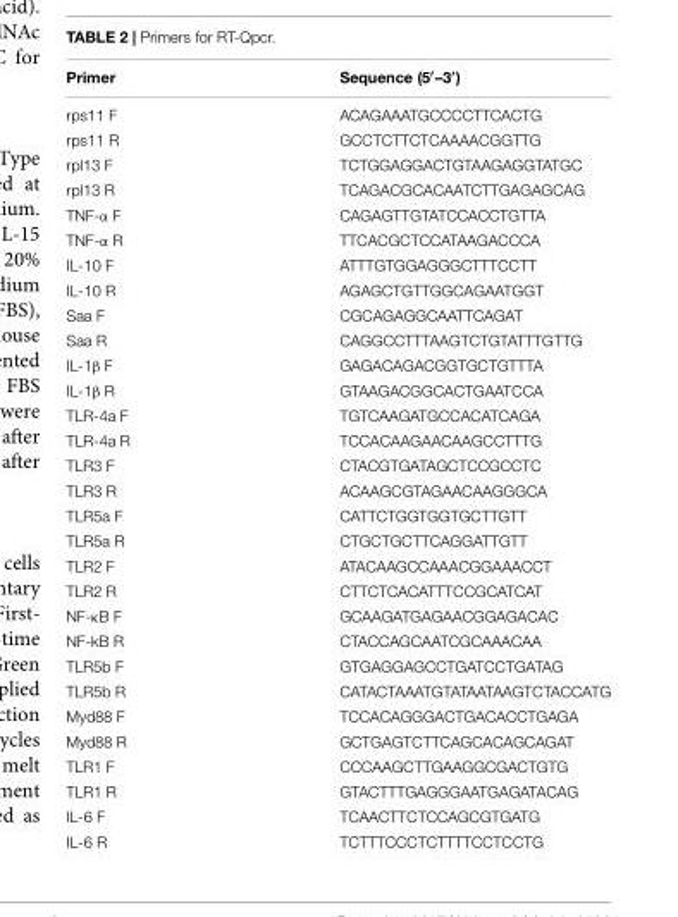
<table><thead><tr><td>Primer</td><td>Sequence (5′–3′)</td></tr></thead><tbody><tr><td>rps11 F</td><td>ACAGAAATGCCCCTTCACTG</td></tr><tr><td>rps11 R</td><td>GCCTCTTCTCAAAACGGTTG</td></tr><tr><td>rpl13 F</td><td>TCTGGAGGACTGTAAGAGGTATGC</td></tr><tr><td>rpl13 R</td><td>TCAGACGCACAATCTTGAGAGCAG</td></tr><tr><td>TNF-α F</td><td>CAGAGTTGTATCCACCTGTTA</td></tr><tr><td>TNF-α R</td><td>TTCACGCTCCATAAGACCCA</td></tr><tr><td>IL-10 F</td><td>ATTTGTGGAGGGCTTTCCTT</td></tr><tr><td>IL-10 R</td><td>AGAGCTGTTGGCAGAATGGT</td></tr><tr><td>Saa F</td><td>CGCAGAGGCAATTCAGAT</td></tr><tr><td>Saa R</td><td>CAGGCCTTTAAGTCTGTATTTGTTG</td></tr><tr><td>IL-1β F</td><td>GAGACAGACGGTGCTGTTTA</td></tr><tr><td>IL-1β R</td><td>GTAAGACGGCACTGAATCCA</td></tr><tr><td>TLR-4a F</td><td>TGTCAAGATGCCACATCAGA</td></tr><tr><td>TLR-4a R</td><td>TCCACAAGAACAAGCCTTTG</td></tr><tr><td>TLR3 F</td><td>CTACGTGATAGCTCCGCCTC</td></tr><tr><td>TLR3 R</td><td>ACAAGCGTAGAACAAGGGCA</td></tr><tr><td>TLR5a F</td><td>CATTCTGGTGGTGCTTGTT</td></tr><tr><td>TLR5a R</td><td>CTGCTGCTTCAGGATTGTT</td></tr><tr><td>TLR2 F</td><td>ATACAAGCCAAACGGAAACCT</td></tr><tr><td>TLR2 R</td><td>CTTCTCACATTTCCGCATCAT</td></tr><tr><td>NF-κB F</td><td>GCAAGATGAGAACGGAGACAC</td></tr><tr><td>NF-kB R</td><td>CTACCAGCAATCGCAAACAA</td></tr><tr><td>TLR5b F</td><td>GTGAGGAGCCTGATCCTGATAG</td></tr><tr><td>TLR5b R</td><td>CATACTAAATGTATAATAAGTCTACCATG</td></tr><tr><td>Myd88 F</td><td>TCCACAGGGACTGACACCTGAGA</td></tr><tr><td>Myd88 R</td><td>GCTGAGTCTTCAGCACAGCAGAT</td></tr><tr><td>TLR1 F</td><td>CCCAAGCTTGAAGGCGACTGTG</td></tr><tr><td>TLR1 R</td><td>GTACTTTGAGGGAATGAGATACAG</td></tr><tr><td>IL-6 F</td><td>TCAACTTCTCCAGCGTGATG</td></tr><tr><td>IL-6 R</td><td>TCTTTCCCTCTTTTCCTCCTG</td></tr></tbody></table>